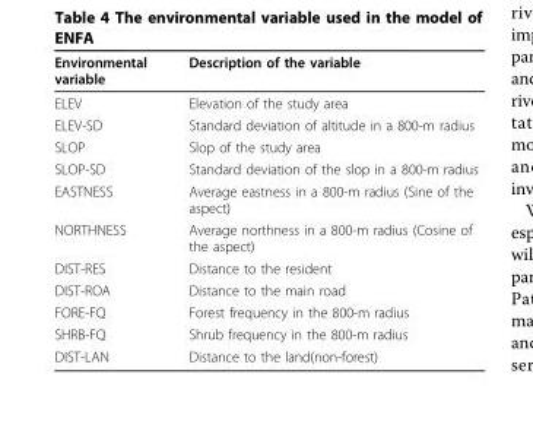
<table><thead><tr><td>Environmental variable</td><td>Description of the variable</td></tr></thead><tbody><tr><td>ELEV</td><td>Elevation of the study area</td></tr><tr><td>ELEV-SD</td><td>Standard deviation of altitude in a 800-m radius</td></tr><tr><td>SLOP</td><td>Slop of the study area</td></tr><tr><td>SLOP-SD</td><td>Standard deviation of the slop in a 800-m radius</td></tr><tr><td>EASTNESS</td><td>Average eastness in a 800-m radius (Sine of the aspect)</td></tr><tr><td>NORTHNESS</td><td>Average northness in a 800-m radius (Cosine of the aspect)</td></tr><tr><td>DIST-RES</td><td>Distance to the resident</td></tr><tr><td>DIST-ROA</td><td>Distance to the main road</td></tr><tr><td>FORE-FQ</td><td>Forest frequency in the 800-m radius</td></tr><tr><td>SHRB-FQ</td><td>Shrub frequency in the 800-m radius</td></tr><tr><td>DIST-LAN</td><td>Distance to the land(non-forest)</td></tr></tbody></table>